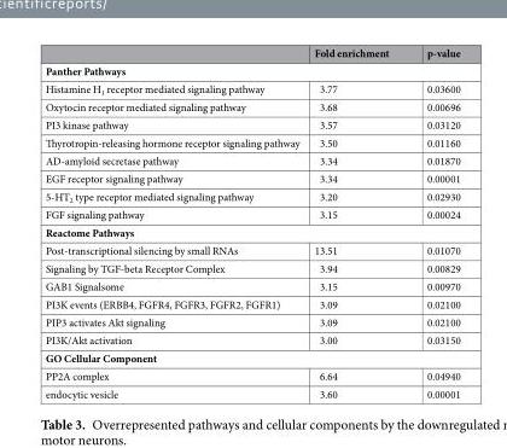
<table><thead><tr><td></td><td>Fold enrichment</td><td>p-value</td></tr></thead><tbody><tr><td colspan="3">Panther Pathways</td></tr><tr><td>Histamine H<sub>1</sub> receptor mediated signaling pathway</td><td>3.77</td><td>0.03600</td></tr><tr><td>Oxytocin receptor mediated signaling pathway</td><td>3.68</td><td>0.00696</td></tr><tr><td>PI3 kinase pathway</td><td>3.57</td><td>0.03120</td></tr><tr><td>Thyrotropin-releasing hormone receptor signaling pathway</td><td>3.50</td><td>0.01160</td></tr><tr><td>AD-amyloid secretase pathway</td><td>3.34</td><td>0.01870</td></tr><tr><td>EGF receptor signaling pathway</td><td>3.34</td><td>0.00001</td></tr><tr><td>5-HT<sub>2</sub> type receptor mediated signaling pathway</td><td>3.20</td><td>0.02930</td></tr><tr><td>FGF signaling pathway</td><td>3.15</td><td>0.00024</td></tr><tr><td colspan="3">Reactome Pathways</td></tr><tr><td>Post-transcriptional silencing by small RNAs</td><td>13.51</td><td>0.01070</td></tr><tr><td>Signaling by TGF-beta Receptor Complex</td><td>3.94</td><td>0.00829</td></tr><tr><td>GAB1 Signalsome</td><td>3.15</td><td>0.00970</td></tr><tr><td>PI3K events (ERBB4, FGFR4, FGFR3, FGFR2, FGFR1)</td><td>3.09</td><td>0.02100</td></tr><tr><td>PIP3 activates Akt signaling</td><td>3.09</td><td>0.02100</td></tr><tr><td>PI3K/Akt activation</td><td>3.00</td><td>0.03150</td></tr><tr><td colspan="3">GO Cellular Component</td></tr><tr><td>PP2A complex</td><td>6.64</td><td>0.04940</td></tr><tr><td>endocytic vesicle</td><td>3.60</td><td>0.00001</td></tr></tbody></table>